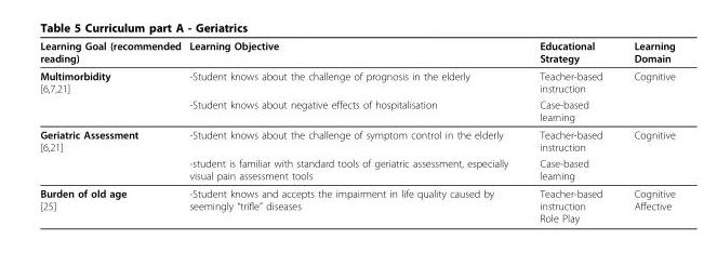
<table><thead><tr><td>Learning Goal (recommended reading)</td><td>Learning Objective</td><td>Educational Strategy</td><td>Learning Domain</td></tr></thead><tbody><tr><td rowspan="2">Multimorbidity [6,7,21]</td><td>-Student knows about the challenge of prognosis in the elderly</td><td>Teacher-based instruction</td><td>Cognitive</td></tr><tr><td>-Student knows about negative effects of hospitalisation</td><td>Case-based learning</td><td></td></tr><tr><td rowspan="2">Geriatric Assessment [6,21]</td><td>-Student knows about the challenge of symptom control in the elderly</td><td>Teacher-based instruction</td><td>Cognitive</td></tr><tr><td>-student is familiar with standard tools of geriatric assessment, especially visual pain assessment tools</td><td>Case-based learning</td><td></td></tr><tr><td>Burden of old age [25]</td><td>-Student knows and accepts the impairment in life quality caused by seemingly “trifle” diseases</td><td>Teacher-based instruction Role Play</td><td>Cognitive Affective</td></tr></tbody></table>